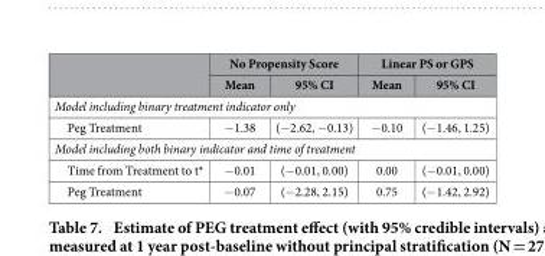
<table><thead><tr><td rowspan="2"></td><td colspan="2">No Propensity Score</td><td colspan="2">Linear PS or GPS</td></tr><tr><td>Mean</td><td>95% CI</td><td>Mean</td><td>95% CI</td></tr></thead><tbody><tr><td colspan="5">Model including binary treatment indicator only</td></tr><tr><td>Peg Treatment</td><td>− 1.38</td><td>(− 2.62, − 0.13)</td><td>− 0.10</td><td>(− 1.46, 1.25)</td></tr><tr><td colspan="5">Model including both binary indicator and time of treatment</td></tr><tr><td>Time from Treatment to t*</td><td>− 0.01</td><td>(− 0.01, 0.00)</td><td>0.00</td><td>(− 0.01, 0.00)</td></tr><tr><td>Peg Treatment</td><td>− 0.07</td><td>(− 2.28, 2.15)</td><td>0.75</td><td>(− 1.42, 2.92)</td></tr></tbody></table>